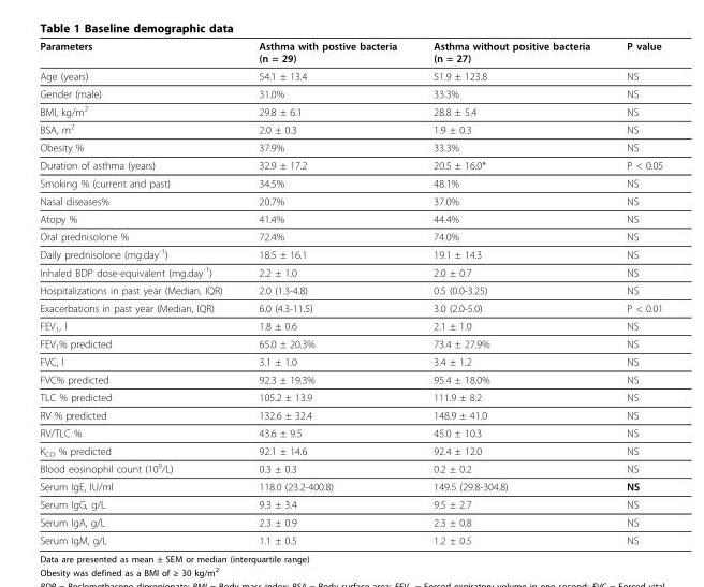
<table><thead><tr><td>Parameters</td><td>Asthma with postive bacteria (n = 29)</td><td>Asthma without positive bacteria (n = 27)</td><td>P value</td></tr></thead><tbody><tr><td>Age (years)</td><td>54.1 ± 13.4</td><td>51.9 ± 123.8</td><td>NS</td></tr><tr><td>Gender (male)</td><td>31.0%</td><td>33.3%</td><td>NS</td></tr><tr><td>BMI, kg/m<sup>2</sup></td><td>29.8 ± 6.1</td><td>28.8 ± 5.4</td><td>NS</td></tr><tr><td>BSA, m<sup>2</sup></td><td>2.0 ± 0.3</td><td>1.9 ± 0.3</td><td>NS</td></tr><tr><td>Obesity %</td><td>37.9%</td><td>33.3%</td><td>NS</td></tr><tr><td>Duration of asthma (years)</td><td>32.9 ± 17.2</td><td>20.5 ± 16.0*</td><td>P &lt; 0.05</td></tr><tr><td>Smoking % (current and past)</td><td>34.5%</td><td>48.1%</td><td>NS</td></tr><tr><td>Nasal diseases%</td><td>20.7%</td><td>37.0%</td><td>NS</td></tr><tr><td>Atopy %</td><td>41.4%</td><td>44.4%</td><td>NS</td></tr><tr><td>Oral prednisolone %</td><td>72.4%</td><td>74.0%</td><td>NS</td></tr><tr><td>Daily prednisolone (mg.day<sup>-1</sup>)</td><td>18.5 ± 16.1</td><td>19.1 ± 14.3</td><td>NS</td></tr><tr><td>Inhaled BDP dose-equivalent (mg.day<sup>-1</sup>)</td><td>2.2 ± 1.0</td><td>2.0 ± 0.7</td><td>NS</td></tr><tr><td>Hospitalizations in past year (Median, IQR)</td><td>2.0 (1.3-4.8)</td><td>0.5 (0.0-3.25)</td><td>NS</td></tr><tr><td>Exacerbations in past year (Median, IQR)</td><td>6.0 (4.3-11.5)</td><td>3.0 (2.0-5.0)</td><td>P &lt; 0.01</td></tr><tr><td>FEV<sub>1</sub>, l</td><td>1.8 ± 0.6</td><td>2.1 ± 1.0</td><td>NS</td></tr><tr><td>FEV<sub>1</sub>% predicted</td><td>65.0 ± 20.3%</td><td>73.4 ± 27.9%</td><td>NS</td></tr><tr><td>FVC, l</td><td>3.1 ± 1.0</td><td>3.4 ± 1.2</td><td>NS</td></tr><tr><td>FVC% predicted</td><td>92.3 ± 19.3%</td><td>95.4 ± 18.0%</td><td>NS</td></tr><tr><td>TLC % predicted</td><td>105.2 ± 13.9</td><td>111.9 ± 8.2</td><td>NS</td></tr><tr><td>RV % predicted</td><td>132.6 ± 32.4</td><td>148.9 ± 41.0</td><td>NS</td></tr><tr><td>RV/TLC %</td><td>43.6 ± 9.5</td><td>45.0 ± 10.3</td><td>NS</td></tr><tr><td>K<sub>CO</sub> % predicted</td><td>92.1 ± 14.6</td><td>92.4 ± 12.0</td><td>NS</td></tr><tr><td>Blood eosinophil count (10<sup>9</sup>/L)</td><td>0.3 ± 0.3</td><td>0.2 ± 0.2</td><td>NS</td></tr><tr><td>Serum IgE, IU/ml</td><td>118.0 (23.2-400.8)</td><td>149.5 (29.8-304.8)</td><td>NS</td></tr><tr><td>Serum IgG, g/L</td><td>9.3 ± 3.4</td><td>9.5 ± 2.7</td><td>NS</td></tr><tr><td>Serum IgA, g/L</td><td>2.3 ± 0.9</td><td>2.3 ± 0.8</td><td>NS</td></tr><tr><td>Serum IgM, g/L</td><td>1.1 ± 0.5</td><td>1.2 ± 0.5</td><td>NS</td></tr></tbody></table>